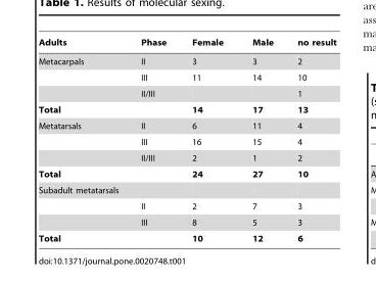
<table><thead><tr><td>Adults</td><td>Phase</td><td>Female</td><td>Male</td><td>no result</td></tr></thead><tbody><tr><td rowspan="3">Metacarpals</td><td>II</td><td>3</td><td>3</td><td>2</td></tr><tr><td>III</td><td>11</td><td>14</td><td>10</td></tr><tr><td>II/III</td><td></td><td></td><td>1</td></tr><tr><td>Total</td><td></td><td>14</td><td>17</td><td>13</td></tr><tr><td rowspan="3">Metatarsals</td><td>II</td><td>6</td><td>11</td><td>4</td></tr><tr><td>III</td><td>16</td><td>15</td><td>4</td></tr><tr><td>II/III</td><td>2</td><td>1</td><td>2</td></tr><tr><td>Total</td><td></td><td>24</td><td>27</td><td>10</td></tr><tr><td colspan="5">Subadult metatarsals</td></tr><tr><td></td><td>II</td><td>2</td><td>7</td><td>3</td></tr><tr><td></td><td>III</td><td>8</td><td>5</td><td>3</td></tr><tr><td>Total</td><td></td><td>10</td><td>12</td><td>6</td></tr></tbody></table>